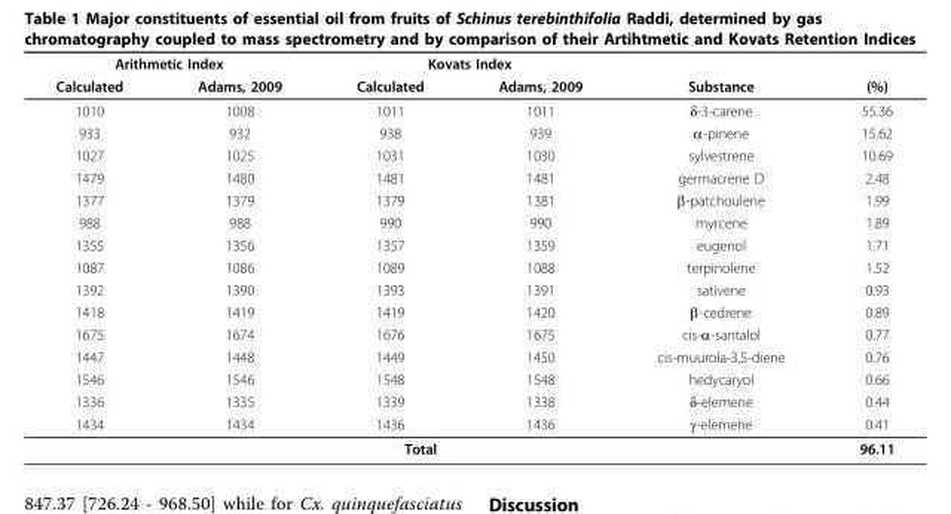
<table><thead><tr><td colspan="2">Arithmetic Index</td><td colspan="2">Kovats Index</td><td rowspan="2">Substance</td><td rowspan="2">(%)</td></tr><tr><td>Calculated</td><td>Adams, 2009</td><td>Calculated</td><td>Adams, 2009</td></tr></thead><tbody><tr><td>1010</td><td>1008</td><td>1011</td><td>1011</td><td>δ-3-carene</td><td>55.36</td></tr><tr><td>933</td><td>932</td><td>938</td><td>939</td><td>α-pinene</td><td>15.62</td></tr><tr><td>1027</td><td>1025</td><td>1031</td><td>1030</td><td>sylvestrene</td><td>10.69</td></tr><tr><td>1479</td><td>1480</td><td>1481</td><td>1481</td><td>germacrene D</td><td>2.48</td></tr><tr><td>1377</td><td>1379</td><td>1379</td><td>1381</td><td>β-patchoulene</td><td>1.99</td></tr><tr><td>988</td><td>988</td><td>990</td><td>990</td><td>myrcene</td><td>1.89</td></tr><tr><td>1355</td><td>1356</td><td>1357</td><td>1359</td><td>eugenol</td><td>1.71</td></tr><tr><td>1087</td><td>1086</td><td>1089</td><td>1088</td><td>terpinolene</td><td>1.52</td></tr><tr><td>1392</td><td>1390</td><td>1393</td><td>1391</td><td>sativene</td><td>0.93</td></tr><tr><td>1418</td><td>1419</td><td>1419</td><td>1420</td><td>β-cedrene</td><td>0.89</td></tr><tr><td>1675</td><td>1674</td><td>1676</td><td>1675</td><td>cis-α-santalol</td><td>0.77</td></tr><tr><td>1447</td><td>1448</td><td>1449</td><td>1450</td><td>cis-muurola-3,5-diene</td><td>0.76</td></tr><tr><td>1546</td><td>1546</td><td>1548</td><td>1548</td><td>hedycaryol</td><td>0.66</td></tr><tr><td>1336</td><td>1335</td><td>1339</td><td>1338</td><td>δ-elemene</td><td>0.44</td></tr><tr><td>1434</td><td>1434</td><td>1436</td><td>1436</td><td>γ-elemene</td><td>0.41</td></tr><tr><td colspan="5">Total</td><td>96.11</td></tr></tbody></table>